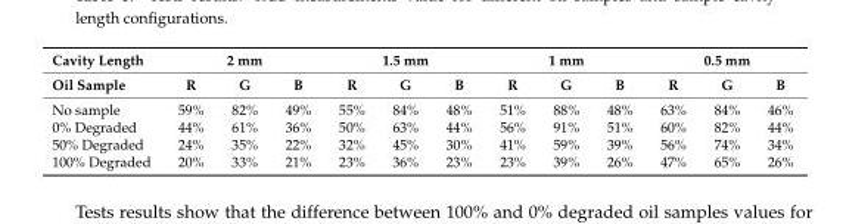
<table><thead><tr><td rowspan="2">Cavity Length Oil Sample</td><td colspan="3">2 mm</td><td colspan="3">1.5 mm</td><td colspan="3">1 mm</td><td colspan="3">0.5 mm</td></tr><tr><td>R</td><td>G</td><td>B</td><td>R</td><td>G</td><td>B</td><td>R</td><td>G</td><td>B</td><td>R</td><td>G</td><td>B</td></tr></thead><tbody><tr><td>No sample</td><td>59%</td><td>82%</td><td>49%</td><td>55%</td><td>84%</td><td>48%</td><td>51%</td><td>88%</td><td>48%</td><td>63%</td><td>84%</td><td>46%</td></tr><tr><td>0% Degraded</td><td>44%</td><td>61%</td><td>36%</td><td>50%</td><td>63%</td><td>44%</td><td>56%</td><td>91%</td><td>51%</td><td>60%</td><td>82%</td><td>44%</td></tr><tr><td>50% Degraded</td><td>24%</td><td>35%</td><td>22%</td><td>32%</td><td>45%</td><td>30%</td><td>41%</td><td>59%</td><td>39%</td><td>56%</td><td>74%</td><td>34%</td></tr><tr><td>100% Degraded</td><td>20%</td><td>33%</td><td>21%</td><td>23%</td><td>36%</td><td>23%</td><td>23%</td><td>39%</td><td>26%</td><td>47%</td><td>65%</td><td>26%</td></tr></tbody></table>